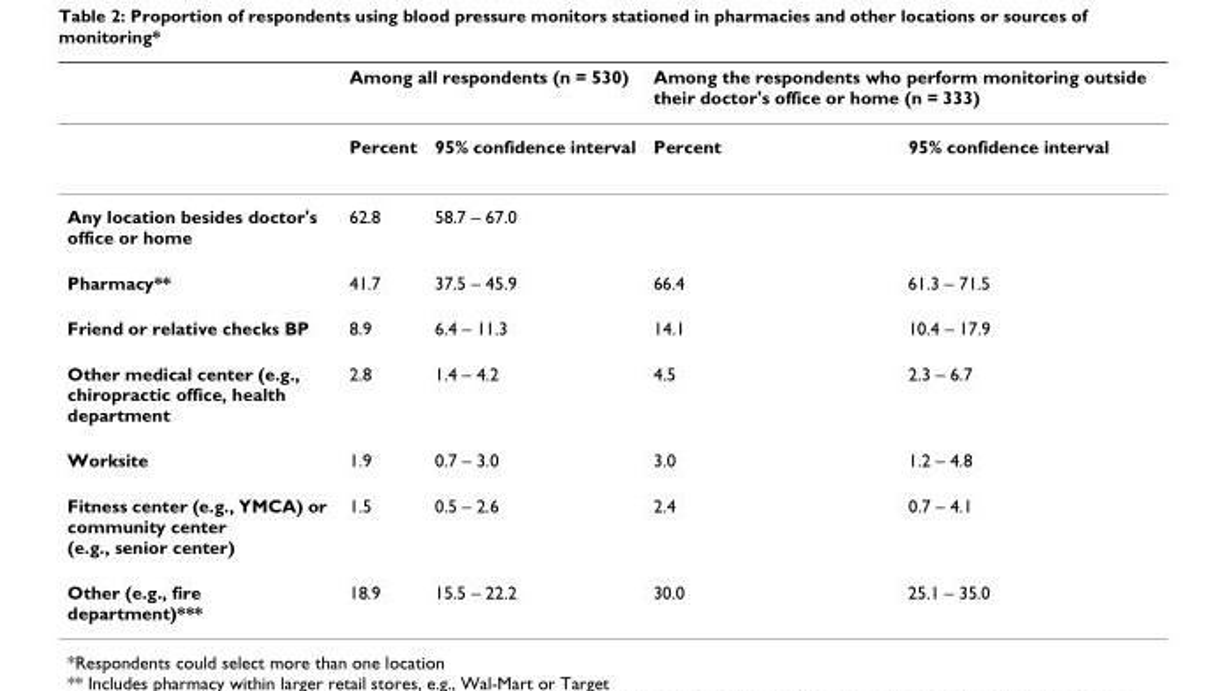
<table><thead><tr><td rowspan="2"></td><td colspan="2">Among all respondents (n = 530)</td><td colspan="2">Among the respondents who perform monitoring outside their doctor&#x27;s office or home (n = 333)</td></tr><tr><td>Percent</td><td>95% confidence interval</td><td>Percent</td><td>95% confidence interval</td></tr></thead><tbody><tr><td>Any location besides doctor&#x27;s office or home</td><td>62.8</td><td>58.7 – 67.0</td><td></td><td></td></tr><tr><td>Pharmacy**</td><td>41.7</td><td>37.5 – 45.9</td><td>66.4</td><td>61.3 – 71.5</td></tr><tr><td>Friend or relative checks BP</td><td>8.9</td><td>6.4 – 11.3</td><td>14.1</td><td>10.4 – 17.9</td></tr><tr><td>Other medical center (e.g., chiropractic office, health department</td><td>2.8</td><td>1.4 – 4.2</td><td>4.5</td><td>2.3 – 6.7</td></tr><tr><td>Worksite</td><td>1.9</td><td>0.7 – 3.0</td><td>3.0</td><td>1.2 – 4.8</td></tr><tr><td>Fitness center (e.g., YMCA) or community center (e.g., senior center)</td><td>1.5</td><td>0.5 – 2.6</td><td>2.4</td><td>0.7 – 4.1</td></tr><tr><td>Other (e.g., fire department)***</td><td>18.9</td><td>15.5 – 22.2</td><td>30.0</td><td>25.1 – 35.0</td></tr></tbody></table>